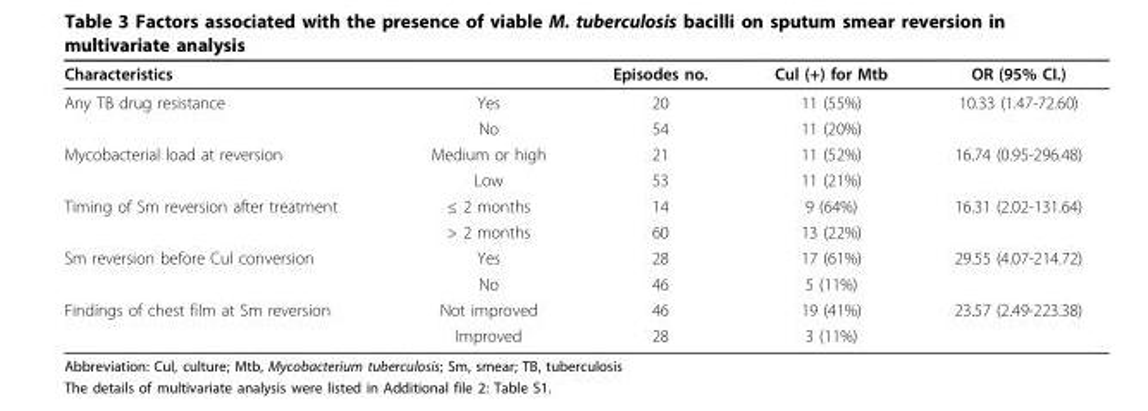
<table><thead><tr><td colspan="2">Characteristics</td><td rowspan="2">Episodes no. 20</td><td rowspan="2">Cul (+) for Mtb 11 (55%)</td><td rowspan="2">OR (95% CI.) 10.33 (1.47-72.60)</td></tr><tr><td>Any TB drug resistance</td><td>Yes</td></tr></thead><tbody><tr><td></td><td>No</td><td>54</td><td>11 (20%)</td><td></td></tr><tr><td rowspan="2">Mycobacterial load at reversion</td><td>Medium or high</td><td>21</td><td>11 (52%)</td><td>16.74 (0.95-296.48)</td></tr><tr><td>Low</td><td>53</td><td>11 (21%)</td><td></td></tr><tr><td rowspan="2">Timing of Sm reversion after treatment</td><td>≤ 2 months</td><td>14</td><td>9 (64%)</td><td>16.31 (2.02-131.64)</td></tr><tr><td>&gt; 2 months</td><td>60</td><td>13 (22%)</td><td></td></tr><tr><td rowspan="2">Sm reversion before Cul conversion</td><td>Yes</td><td>28</td><td>17 (61%)</td><td>29.55 (4.07-214.72)</td></tr><tr><td>No</td><td>46</td><td>5 (11%)</td><td></td></tr><tr><td rowspan="2">Findings of chest film at Sm reversion</td><td>Not improved</td><td>46</td><td>19 (41%)</td><td>23.57 (2.49-223.38)</td></tr><tr><td>Improved</td><td>28</td><td>3 (11%)</td><td></td></tr></tbody></table>